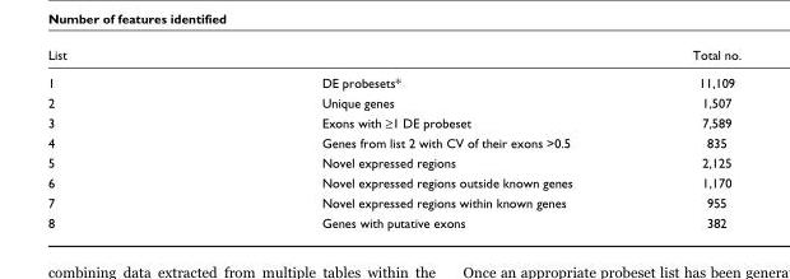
<table><thead><tr><td>List</td><td></td><td>Total no.</td></tr></thead><tbody><tr><td>1</td><td>DE probesets*</td><td>11,109</td></tr><tr><td>2</td><td>Unique genes</td><td>1,507</td></tr><tr><td>3</td><td>Exons with ≥1 DE probeset</td><td>7,589</td></tr><tr><td>4</td><td>Genes from list 2 with CV of their exons &gt;0.5</td><td>835</td></tr><tr><td>5</td><td>Novel expressed regions</td><td>2,125</td></tr><tr><td>6</td><td>Novel expressed regions outside known genes</td><td>1,170</td></tr><tr><td>7</td><td>Novel expressed regions within known genes</td><td>955</td></tr><tr><td>8</td><td>Genes with putative exons</td><td>382</td></tr></tbody></table>